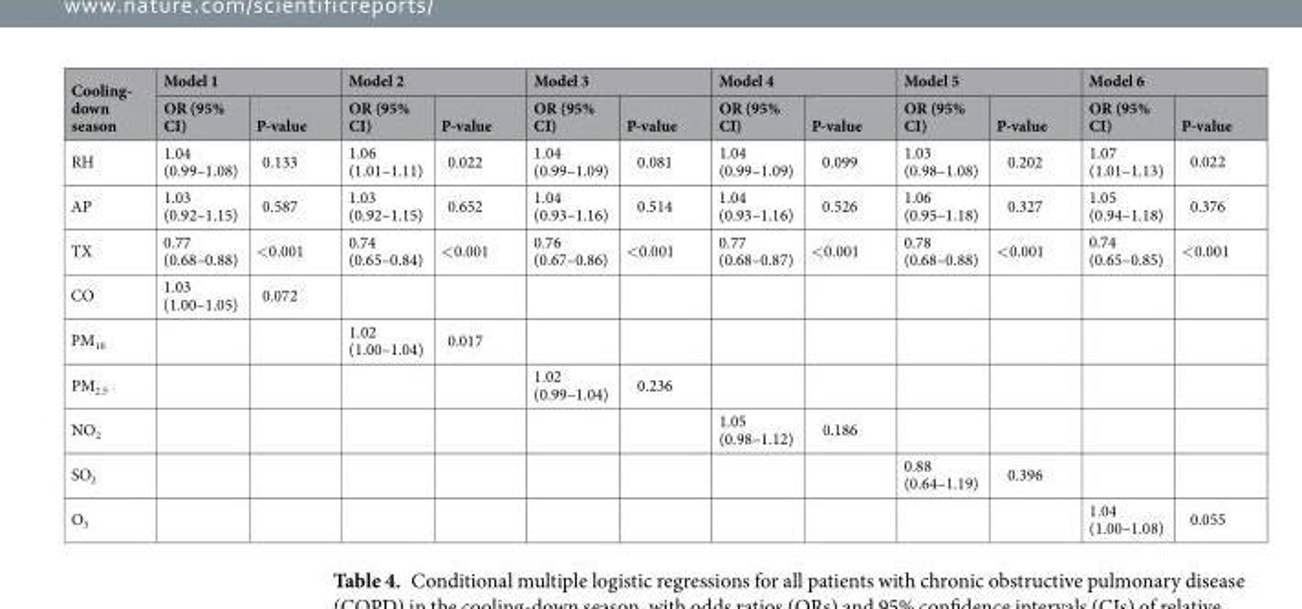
<table><thead><tr><td rowspan="2">Cooling- down season</td><td colspan="2">Model 1</td><td colspan="2">Model 2</td><td colspan="2">Model 3</td><td colspan="2">Model 4</td><td colspan="2">Model 5</td><td colspan="2">Model 6</td></tr><tr><td>OR (95% CI)</td><td>P-value</td><td>OR (95% CI)</td><td>P-value</td><td>OR (95% CI)</td><td>P-value</td><td>OR (95% CI)</td><td>P-value</td><td>OR (95% CI)</td><td>P-value</td><td>OR (95% CI)</td><td>P-value</td></tr></thead><tbody><tr><td>RH</td><td>1.04 (0.99–1.08)</td><td>0.133</td><td>1.06 (1.01–1.11)</td><td>0.022</td><td>1.04 (0.99–1.09)</td><td>0.081</td><td>1.04 (0.99–1.09)</td><td>0.099</td><td>1.03 (0.98–1.08)</td><td>0.202</td><td>1.07 (1.01–1.13)</td><td>0.022</td></tr><tr><td>AP</td><td>1.03 (0.92–1.15)</td><td>0.587</td><td>1.03 (0.92–1.15)</td><td>0.652</td><td>1.04 (0.93–1.16)</td><td>0.514</td><td>1.04 (0.93–1.16)</td><td>0.526</td><td>1.06 (0.95–1.18)</td><td>0.327</td><td>1.05 (0.94–1.18)</td><td>0.376</td></tr><tr><td>TX</td><td>0.77 (0.68–0.88)</td><td>&lt;0.001</td><td>0.74 (0.65–0.84)</td><td>&lt;0.001</td><td>0.76 (0.67–0.86)</td><td>&lt;0.001</td><td>0.77 (0.68–0.87)</td><td>&lt;0.001</td><td>0.78 (0.68–0.88)</td><td>&lt;0.001</td><td>0.74 (0.65–0.85)</td><td>&lt;0.001</td></tr><tr><td>CO</td><td>1.03 (1.00–1.05)</td><td>0.072</td><td></td><td></td><td></td><td></td><td></td><td></td><td></td><td></td><td></td><td></td></tr><tr><td>PM<sub>10</sub></td><td></td><td></td><td>1.02 (1.00–1.04)</td><td>0.017</td><td></td><td></td><td></td><td></td><td></td><td></td><td></td><td></td></tr><tr><td>PM<sub>2.5</sub></td><td></td><td></td><td></td><td></td><td>1.02 (0.99–1.04)</td><td>0.236</td><td></td><td></td><td></td><td></td><td></td><td></td></tr><tr><td>NO<sub>2</sub></td><td></td><td></td><td></td><td></td><td></td><td></td><td>1.05 (0.98–1.12)</td><td>0.186</td><td></td><td></td><td></td><td></td></tr><tr><td>SO<sub>2</sub></td><td></td><td></td><td></td><td></td><td></td><td></td><td></td><td></td><td>0.88 (0.64–1.19)</td><td>0.396</td><td></td><td></td></tr><tr><td>O<sub>3</sub></td><td></td><td></td><td></td><td></td><td></td><td></td><td></td><td></td><td></td><td></td><td>1.04 (1.00–1.08)</td><td>0.055</td></tr></tbody></table>